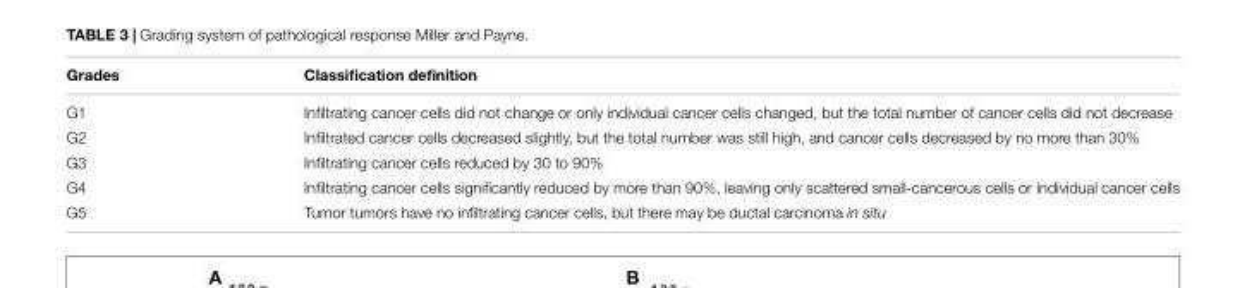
<table><thead><tr><td>Grades</td><td>Classification definition</td></tr></thead><tbody><tr><td>G1</td><td>Infiltrating cancer cells did not change or only individual cancer cells changed, but the total number of cancer cells did not decrease</td></tr><tr><td>G2</td><td>Infiltrated cancer cells decreased slightly, but the total number was still high, and cancer cells decreased by no more than 30%</td></tr><tr><td>G3</td><td>Infiltrating cancer cells reduced by 30 to 90%</td></tr><tr><td>G4</td><td>Infiltrating cancer cells significantly reduced by more than 90%, leaving only scattered small-cancerous cells or individual cancer cells</td></tr><tr><td>G5</td><td>Tumor tumors have no infiltrating cancer cells, but there may be ductal carcinoma in situ</td></tr></tbody></table>